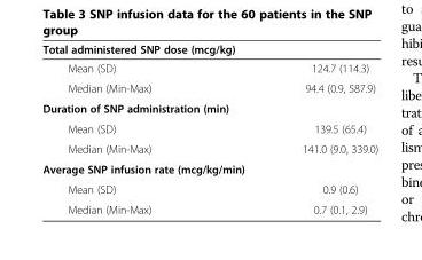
<table><thead><tr><td colspan="2">Total administered SNP dose (mcg/kg)</td></tr><tr><td>Mean (SD)</td><td>124.7 (114.3)</td></tr></thead><tbody><tr><td>Median (Min-Max)</td><td>94.4 (0.9, 587.9)</td></tr><tr><td colspan="2">Duration of SNP administration (min)</td></tr><tr><td>Mean (SD)</td><td>139.5 (65.4)</td></tr><tr><td>Median (Min-Max)</td><td>141.0 (9.0, 339.0)</td></tr><tr><td colspan="2">Average SNP infusion rate (mcg/kg/min)</td></tr><tr><td>Mean (SD)</td><td>0.9 (0.6)</td></tr><tr><td>Median (Min-Max)</td><td>0.7 (0.1, 2.9)</td></tr></tbody></table>